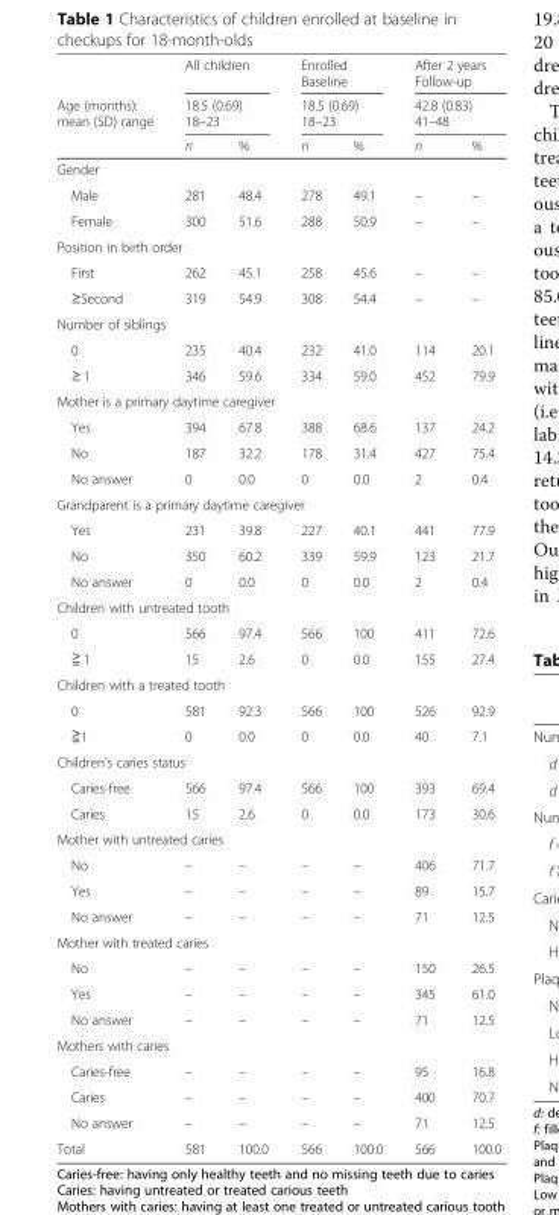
<table><thead><tr><td rowspan="3">Age (months): mean (SD) range</td><td rowspan="2" colspan="2">All children 18.5 (0.69) 18–23</td><td rowspan="2" colspan="2">Enrolled Baseline 18.5 (0.69) 18–23</td><td rowspan="2" colspan="2">After 2 years Follow-up 42.8 (0.83) 41–48</td></tr><tr></tr><tr><td>n</td><td>%</td><td>n</td><td>%</td><td>n</td><td>%</td></tr></thead><tbody><tr><td colspan="7">Gender</td></tr><tr><td>Male</td><td>281</td><td>48.4</td><td>278</td><td>49.1</td><td>–</td><td>–</td></tr><tr><td>Female</td><td>300</td><td>51.6</td><td>288</td><td>50.9</td><td>–</td><td>–</td></tr><tr><td colspan="7">Position in birth order</td></tr><tr><td>First</td><td>262</td><td>45.1</td><td>258</td><td>45.6</td><td>–</td><td>–</td></tr><tr><td>≥Second</td><td>319</td><td>54.9</td><td>308</td><td>54.4</td><td>–</td><td>–</td></tr><tr><td colspan="7">Number of siblings</td></tr><tr><td>0</td><td>235</td><td>40.4</td><td>232</td><td>41.0</td><td>114</td><td>20.1</td></tr><tr><td>≥ 1</td><td>346</td><td>59.6</td><td>334</td><td>59.0</td><td>452</td><td>79.9</td></tr><tr><td colspan="7">Mother is a primary daytime caregiver</td></tr><tr><td>Yes</td><td>394</td><td>67.8</td><td>388</td><td>68.6</td><td>137</td><td>24.2</td></tr><tr><td>No</td><td>187</td><td>32.2</td><td>178</td><td>31.4</td><td>427</td><td>75.4</td></tr><tr><td>No answer</td><td>0</td><td>0.0</td><td>0</td><td>0.0</td><td>2</td><td>0.4</td></tr><tr><td colspan="7">Grandparent is a primary daytime caregiver</td></tr><tr><td>Yes</td><td>231</td><td>39.8</td><td>227</td><td>40.1</td><td>441</td><td>77.9</td></tr><tr><td>No</td><td>350</td><td>60.2</td><td>339</td><td>59.9</td><td>123</td><td>21.7</td></tr><tr><td>No answer</td><td>0</td><td>0.0</td><td>0</td><td>0.0</td><td>2</td><td>0.4</td></tr><tr><td colspan="7">Children with untreated tooth</td></tr><tr><td>0</td><td>566</td><td>97.4</td><td>566</td><td>100</td><td>411</td><td>72.6</td></tr><tr><td>≧ 1</td><td>15</td><td>2.6</td><td>0</td><td>0.0</td><td>155</td><td>27.4</td></tr><tr><td colspan="7">Children with a treated tooth</td></tr><tr><td>0</td><td>581</td><td>92.3</td><td>566</td><td>100</td><td>526</td><td>92.9</td></tr><tr><td>≧1</td><td>0</td><td>0.0</td><td>0</td><td>0.0</td><td>40</td><td>7.1</td></tr><tr><td colspan="7">Children’s caries status</td></tr><tr><td>Caries-free</td><td>566</td><td>97.4</td><td>566</td><td>100</td><td>393</td><td>69.4</td></tr><tr><td>Caries</td><td>15</td><td>2.6</td><td>0</td><td>0.0</td><td>173</td><td>30.6</td></tr><tr><td colspan="7">Mother with untreated caries</td></tr><tr><td>No</td><td>–</td><td>–</td><td>–</td><td>–</td><td>406</td><td>71.7</td></tr><tr><td>Yes</td><td>–</td><td>–</td><td>–</td><td>–</td><td>89</td><td>15.7</td></tr><tr><td>No answer</td><td>–</td><td>–</td><td>–</td><td>–</td><td>71</td><td>12.5</td></tr><tr><td colspan="7">Mother with treated caries</td></tr><tr><td>No</td><td>–</td><td>–</td><td>–</td><td>–</td><td>150</td><td>26.5</td></tr><tr><td>Yes</td><td>–</td><td>–</td><td>–</td><td>–</td><td>345</td><td>61.0</td></tr><tr><td>No answer</td><td>–</td><td>–</td><td>–</td><td>–</td><td>71</td><td>12.5</td></tr><tr><td colspan="7">Mothers with caries</td></tr><tr><td>Caries-free</td><td>–</td><td>–</td><td>–</td><td>–</td><td>95</td><td>16.8</td></tr><tr><td>Caries</td><td>–</td><td>–</td><td>–</td><td>–</td><td>400</td><td>70.7</td></tr><tr><td>No answer</td><td>–</td><td>–</td><td>–</td><td>–</td><td>71</td><td>12.5</td></tr><tr><td>Total</td><td>581</td><td>100.0</td><td>566</td><td>100.0</td><td>566</td><td>100.0</td></tr></tbody></table>